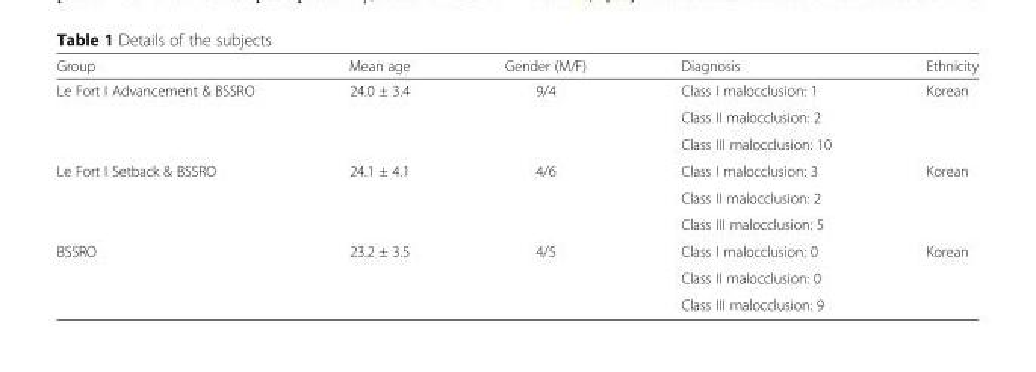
<table><thead><tr><td>Group</td><td>Mean age</td><td>Gender (M/F)</td><td>Diagnosis</td><td>Ethnicity</td></tr></thead><tbody><tr><td rowspan="3">Le Fort I Advancement &amp; BSSRO</td><td rowspan="3">24.0 ± 3.4</td><td rowspan="3">9/4</td><td>Class I malocclusion: 1</td><td rowspan="3">Korean</td></tr><tr><td>Class II malocclusion: 2</td></tr><tr><td>Class III malocclusion: 10</td></tr><tr><td rowspan="3">Le Fort I Setback &amp; BSSRO</td><td rowspan="3">24.1 ± 4.1</td><td rowspan="3">4/6</td><td>Class I malocclusion: 3</td><td rowspan="3">Korean</td></tr><tr><td>Class II malocclusion: 2</td></tr><tr><td>Class III malocclusion: 5</td></tr><tr><td rowspan="3">BSSRO</td><td rowspan="3">23.2 ± 3.5</td><td rowspan="3">4/5</td><td>Class I malocclusion: 0</td><td rowspan="3">Korean</td></tr><tr><td>Class II malocclusion: 0</td></tr><tr><td>Class III malocclusion: 9</td></tr></tbody></table>